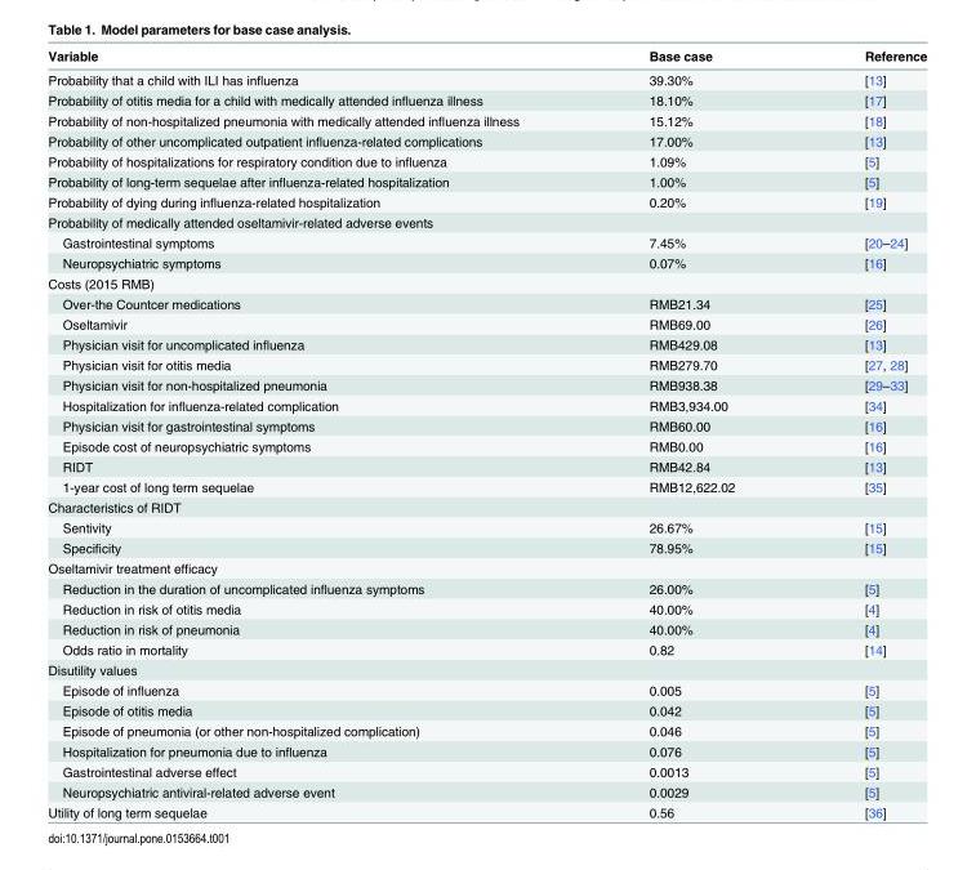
<table><thead><tr><td>Variable</td><td>Base case</td><td>Reference</td></tr></thead><tbody><tr><td>Probability that a child with ILI has influenza</td><td>39.30%</td><td>[13]</td></tr><tr><td>Probability of otitis media for a child with medically attended influenza illness</td><td>18.10%</td><td>[17]</td></tr><tr><td>Probability of non-hospitalized pneumonia with medically attended influenza illness</td><td>15.12%</td><td>[18]</td></tr><tr><td>Probability of other uncomplicated outpatient influenza-related complications</td><td>17.00%</td><td>[13]</td></tr><tr><td>Probability of hospitalizations for respiratory condition due to influenza</td><td>1.09%</td><td>[5]</td></tr><tr><td>Probability of long-term sequelae after influenza-related hospitalization</td><td>1.00%</td><td>[5]</td></tr><tr><td>Probability of dying during influenza-related hospitalization</td><td>0.20%</td><td>[19]</td></tr><tr><td colspan="3">Probability of medically attended oseltamivir-related adverse events</td></tr><tr><td>Gastrointestinal symptoms</td><td>7.45%</td><td>[20–24]</td></tr><tr><td>Neuropsychiatric symptoms</td><td>0.07%</td><td>[16]</td></tr><tr><td colspan="3">Costs (2015 RMB)</td></tr><tr><td>Over-the Countcer medications</td><td>RMB21.34</td><td>[25]</td></tr><tr><td>Oseltamivir</td><td>RMB69.00</td><td>[26]</td></tr><tr><td>Physician visit for uncomplicated influenza</td><td>RMB429.08</td><td>[13]</td></tr><tr><td>Physician visit for otitis media</td><td>RMB279.70</td><td>[27, 28]</td></tr><tr><td>Physician visit for non-hospitalized pneumonia</td><td>RMB938.38</td><td>[29–33]</td></tr><tr><td>Hospitalization for influenza-related complication</td><td>RMB3,934.00</td><td>[34]</td></tr><tr><td>Physician visit for gastrointestinal symptoms</td><td>RMB60.00</td><td>[16]</td></tr><tr><td>Episode cost of neuropsychiatric symptoms</td><td>RMB0.00</td><td>[16]</td></tr><tr><td>RIDT</td><td>RMB42.84</td><td>[13]</td></tr><tr><td>1-year cost of long term sequelae</td><td>RMB12,622.02</td><td>[35]</td></tr><tr><td colspan="3">Characteristics of RIDT</td></tr><tr><td>Sentivity</td><td>26.67%</td><td>[15]</td></tr><tr><td>Specificity</td><td>78.95%</td><td>[15]</td></tr><tr><td colspan="3">Oseltamivir treatment efficacy</td></tr><tr><td>Reduction in the duration of uncomplicated influenza symptoms</td><td>26.00%</td><td>[5]</td></tr><tr><td>Reduction in risk of otitis media</td><td>40.00%</td><td>[4]</td></tr><tr><td>Reduction in risk of pneumonia</td><td>40.00%</td><td>[4]</td></tr><tr><td>Odds ratio in mortality</td><td>0.82</td><td>[14]</td></tr><tr><td colspan="3">Disutility values</td></tr><tr><td>Episode of influenza</td><td>0.005</td><td>[5]</td></tr><tr><td>Episode of otitis media</td><td>0.042</td><td>[5]</td></tr><tr><td>Episode of pneumonia (or other non-hospitalized complication)</td><td>0.046</td><td>[5]</td></tr><tr><td>Hospitalization for pneumonia due to influenza</td><td>0.076</td><td>[5]</td></tr><tr><td>Gastrointestinal adverse effect</td><td>0.0013</td><td>[5]</td></tr><tr><td>Neuropsychiatric antiviral-related adverse event</td><td>0.0029</td><td>[5]</td></tr><tr><td>Utility of long term sequelae</td><td>0.56</td><td>[36]</td></tr></tbody></table>